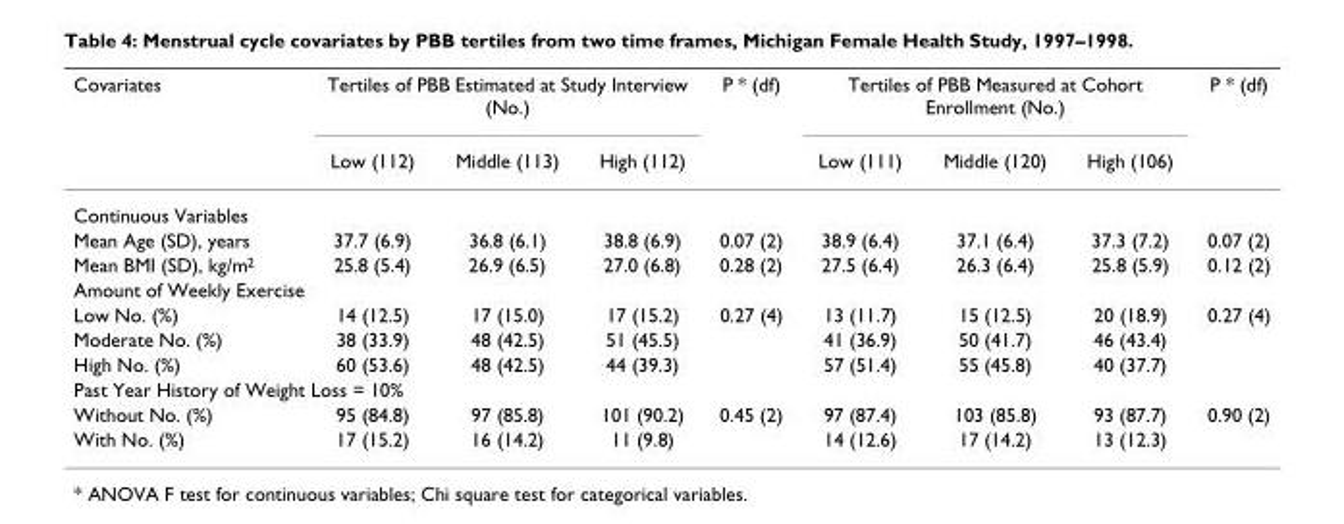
<table><thead><tr><td rowspan="2">Covariates</td><td colspan="3">Tertiles of PBB Estimated at Study Interview (No.)</td><td rowspan="2">P * (df)</td><td colspan="3">Tertiles of PBB Measured at Cohort Enrollment (No.)</td><td rowspan="2">P * (df)</td></tr><tr><td>Low (112)</td><td>Middle (113)</td><td>High (112)</td><td>Low (111)</td><td>Middle (120)</td><td>High (106)</td></tr></thead><tbody><tr><td colspan="9">Continuous Variables</td></tr><tr><td>Mean Age (SD), years</td><td>37.7 (6.9)</td><td>36.8 (6.1)</td><td>38.8 (6.9)</td><td>0.07 (2)</td><td>38.9 (6.4)</td><td>37.1 (6.4)</td><td>37.3 (7.2)</td><td>0.07 (2)</td></tr><tr><td>Mean BMI (SD), kg/m<sup>2</sup></td><td>25.8 (5.4)</td><td>26.9 (6.5)</td><td>27.0 (6.8)</td><td>0.28 (2)</td><td>27.5 (6.4)</td><td>26.3 (6.4)</td><td>25.8 (5.9)</td><td>0.12 (2)</td></tr><tr><td colspan="9">Amount of Weekly Exercise</td></tr><tr><td>Low No. (%)</td><td>14 (12.5)</td><td>17 (15.0)</td><td>17 (15.2)</td><td>0.27 (4)</td><td>13 (11.7)</td><td>15 (12.5)</td><td>20 (18.9)</td><td>0.27 (4)</td></tr><tr><td>Moderate No. (%)</td><td>38 (33.9)</td><td>48 (42.5)</td><td>51 (45.5)</td><td></td><td>41 (36.9)</td><td>50 (41.7)</td><td>46 (43.4)</td><td></td></tr><tr><td>High No. (%)</td><td>60 (53.6)</td><td>48 (42.5)</td><td>44 (39.3)</td><td></td><td>57 (51.4)</td><td>55 (45.8)</td><td>40 (37.7)</td><td></td></tr><tr><td colspan="9">Past Year History of Weight Loss = 10%</td></tr><tr><td>Without No. (%)</td><td>95 (84.8)</td><td>97 (85.8)</td><td>101 (90.2)</td><td>0.45 (2)</td><td>97 (87.4)</td><td>103 (85.8)</td><td>93 (87.7)</td><td>0.90 (2)</td></tr><tr><td>With No. (%)</td><td>17 (15.2)</td><td>16 (14.2)</td><td>11 (9.8)</td><td></td><td>14 (12.6)</td><td>17 (14.2)</td><td>13 (12.3)</td><td></td></tr></tbody></table>